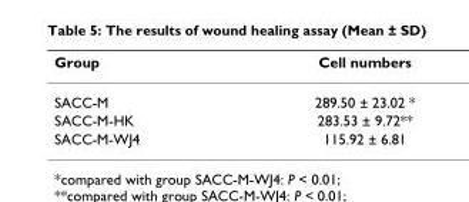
<table><thead><tr><td>Group</td><td>Cell numbers</td></tr></thead><tbody><tr><td>SACC-M</td><td>289.50 ± 23.02 *</td></tr><tr><td>SACC-M-HK</td><td>283.53 ± 9.72**</td></tr><tr><td>SACC-M-WJ4</td><td>115.92 ± 6.81</td></tr></tbody></table>